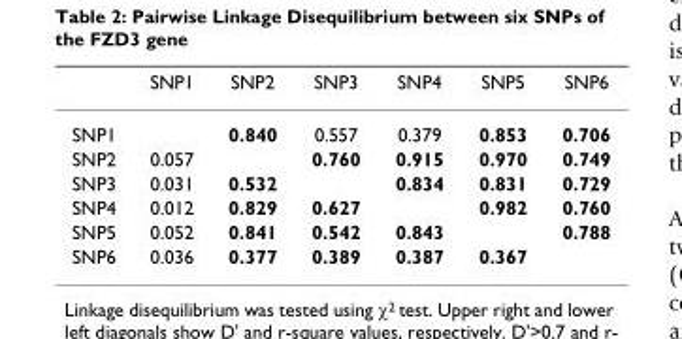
<table><thead><tr><td></td><td>SNP1</td><td>SNP2</td><td>SNP3</td><td>SNP4</td><td>SNP5</td><td>SNP6</td></tr></thead><tbody><tr><td>SNP1</td><td></td><td>0.840</td><td>0.557</td><td>0.379</td><td>0.853</td><td>0.706</td></tr><tr><td>SNP2</td><td>0.057</td><td></td><td>0.760</td><td>0.915</td><td>0.970</td><td>0.749</td></tr><tr><td>SNP3</td><td>0.031</td><td>0.532</td><td></td><td>0.834</td><td>0.831</td><td>0.729</td></tr><tr><td>SNP4</td><td>0.012</td><td>0.829</td><td>0.627</td><td></td><td>0.982</td><td>0.760</td></tr><tr><td>SNP5</td><td>0.052</td><td>0.841</td><td>0.542</td><td>0.843</td><td></td><td>0.788</td></tr><tr><td>SNP6</td><td>0.036</td><td>0.377</td><td>0.389</td><td>0.387</td><td>0.367</td><td></td></tr></tbody></table>